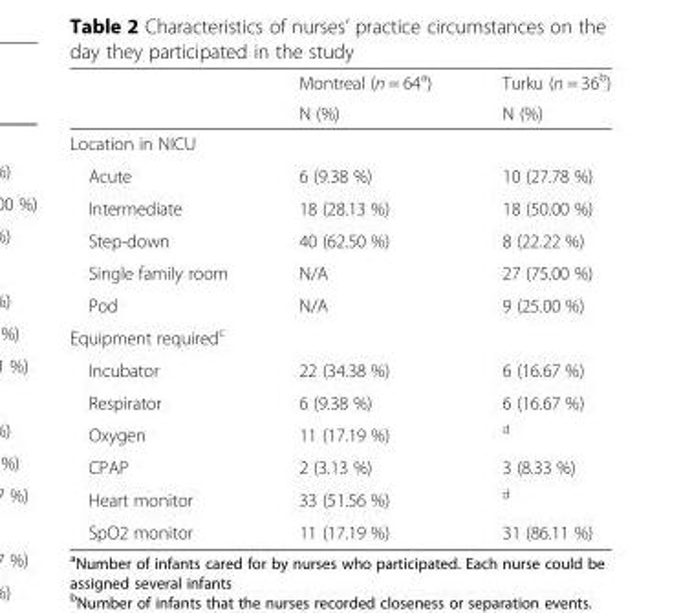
<table><thead><tr><td rowspan="2"></td><td rowspan="2">Montreal (n = 64<sup>a</sup>) N (%)</td><td rowspan="2">Turku (n = 36<sup>b</sup>) N (%)</td></tr><tr></tr></thead><tbody><tr><td colspan="3">Location in NICU</td></tr><tr><td>Acute</td><td>6 (9.38 %)</td><td>10 (27.78 %)</td></tr><tr><td>Intermediate</td><td>18 (28.13 %)</td><td>18 (50.00 %)</td></tr><tr><td>Step-down</td><td>40 (62.50 %)</td><td>8 (22.22 %)</td></tr><tr><td>Single family room</td><td>N/A</td><td>27 (75.00 %)</td></tr><tr><td>Pod</td><td>N/A</td><td>9 (25.00 %)</td></tr><tr><td colspan="3">Equipment required<sup>c</sup></td></tr><tr><td>Incubator</td><td>22 (34.38 %)</td><td>6 (16.67 %)</td></tr><tr><td>Respirator</td><td>6 (9.38 %)</td><td>6 (16.67 %)</td></tr><tr><td>Oxygen</td><td>11 (17.19 %)</td><td><sup>d</sup></td></tr><tr><td>CPAP</td><td>2 (3.13 %)</td><td>3 (8.33 %)</td></tr><tr><td>Heart monitor</td><td>33 (51.56 %)</td><td><sup>d</sup></td></tr><tr><td>SpO2 monitor</td><td>11 (17.19 %)</td><td>31 (86.11 %)</td></tr></tbody></table>